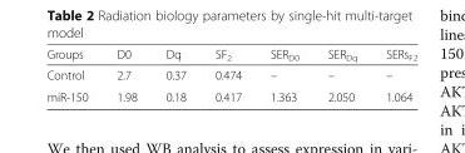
<table><thead><tr><td>Groups</td><td>D0</td><td>Dq</td><td>SF<sub>2</sub></td><td>SER<sub>D0</sub></td><td>SER<sub>Dq</sub></td><td>SERs<sub>F2</sub></td></tr></thead><tbody><tr><td>Control</td><td>2.7</td><td>0.37</td><td>0.474</td><td>–</td><td>–</td><td>–</td></tr><tr><td>miR-150</td><td>1.98</td><td>0.18</td><td>0.417</td><td>1.363</td><td>2.050</td><td>1.064</td></tr></tbody></table>